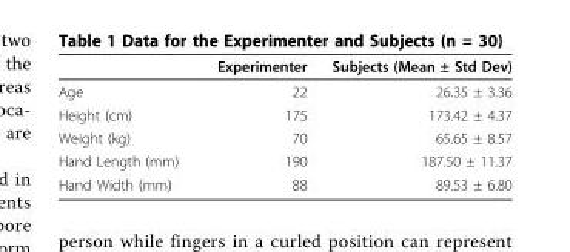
<table><thead><tr><td></td><td>Experimenter</td><td>Subjects (Mean ± Std Dev)</td></tr></thead><tbody><tr><td>Age</td><td>22</td><td>26.35 ± 3.36</td></tr><tr><td>Height (cm)</td><td>175</td><td>173.42 ± 4.37</td></tr><tr><td>Weight (kg)</td><td>70</td><td>65.65 ± 8.57</td></tr><tr><td>Hand Length (mm)</td><td>190</td><td>187.50 ± 11.37</td></tr><tr><td>Hand Width (mm)</td><td>88</td><td>89.53 ± 6.80</td></tr></tbody></table>